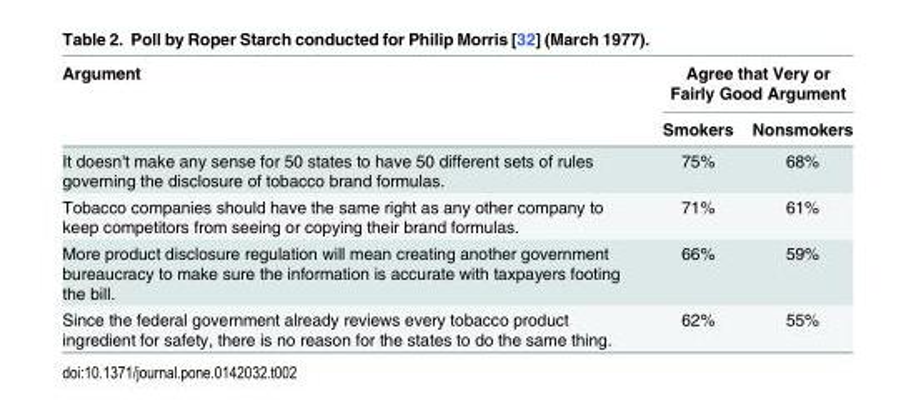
<table><thead><tr><td rowspan="2">Argument</td><td colspan="2">Agree that Very or Fairly Good Argument</td></tr><tr><td>Smokers</td><td>Nonsmokers</td></tr></thead><tbody><tr><td>It doesn&#x27;t make any sense for 50 states to have 50 different sets of rules governing the disclosure of tobacco brand formulas.</td><td>75%</td><td>68%</td></tr><tr><td>Tobacco companies should have the same right as any other company to keep competitors from seeing or copying their brand formulas.</td><td>71%</td><td>61%</td></tr><tr><td>More product disclosure regulation will mean creating another government bureaucracy to make sure the information is accurate with taxpayers footing the bill.</td><td>66%</td><td>59%</td></tr><tr><td>Since the federal government already reviews every tobacco product ingredient for safety, there is no reason for the states to do the same thing.</td><td>62%</td><td>55%</td></tr></tbody></table>